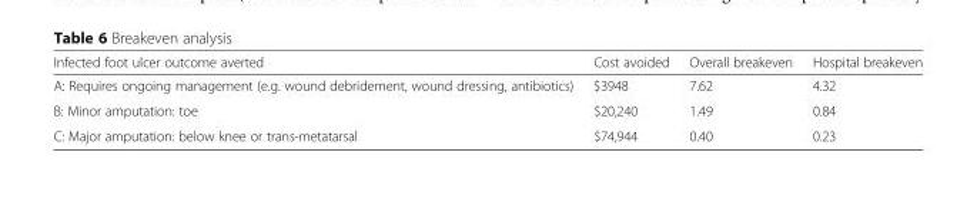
<table><thead><tr><td>Infected foot ulcer outcome averted</td><td>Cost avoided</td><td>Overall breakeven</td><td>Hospital breakeven</td></tr></thead><tbody><tr><td>A: Requires ongoing management (e.g. wound debridement, wound dressing, antibiotics)</td><td>$3948</td><td>7.62</td><td>4.32</td></tr><tr><td>B: Minor amputation: toe</td><td>$20,240</td><td>1.49</td><td>0.84</td></tr><tr><td>C: Major amputation: below knee or trans-metatarsal</td><td>$74,944</td><td>0.40</td><td>0.23</td></tr></tbody></table>